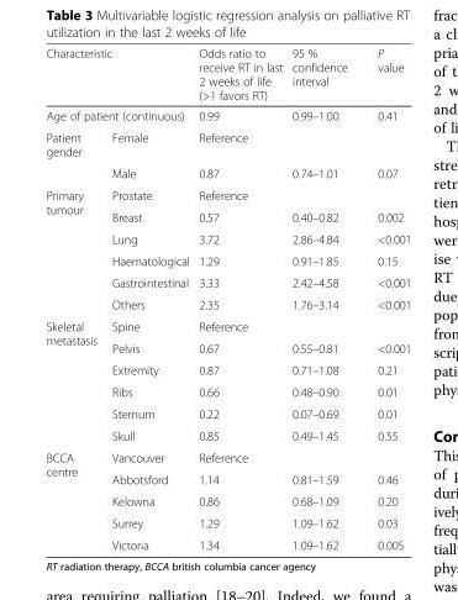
<table><thead><tr><td rowspan="2" colspan="2">Characteristic Age of patient (continuous)</td><td rowspan="2">Odds ratio to receive RT in last 2 weeks of life (&gt;1 favors RT) 0.99</td><td rowspan="2">95 % confidence interval 0.99–1.00</td><td rowspan="2">P value 0.41</td></tr><tr></tr><tr><td>Patient gender</td><td>Female</td><td colspan="3">Reference</td></tr></thead><tbody><tr><td></td><td>Male</td><td>0.87</td><td>0.74–1.01</td><td>0.07</td></tr><tr><td rowspan="6">Primary tumour</td><td>Prostate</td><td colspan="3">Reference</td></tr><tr><td>Breast</td><td>0.57</td><td>0.40–0.82</td><td>0.002</td></tr><tr><td>Lung</td><td>3.72</td><td>2.86–4.84</td><td>&lt;0.001</td></tr><tr><td>Haematological</td><td>1.29</td><td>0.91–1.85</td><td>0.15</td></tr><tr><td>Gastrointestinal</td><td>3.33</td><td>2.42–4.58</td><td>&lt;0.001</td></tr><tr><td>Others</td><td>2.35</td><td>1.76–3.14</td><td>&lt;0.001</td></tr><tr><td rowspan="6">Skeletal metastasis</td><td>Spine</td><td colspan="3">Reference</td></tr><tr><td>Pelvis</td><td>0.67</td><td>0.55–0.81</td><td>&lt;0.001</td></tr><tr><td>Extremity</td><td>0.87</td><td>0.71–1.08</td><td>0.21</td></tr><tr><td>Ribs</td><td>0.66</td><td>0.48–0.90</td><td>0.01</td></tr><tr><td>Sternum</td><td>0.22</td><td>0.07–0.69</td><td>0.01</td></tr><tr><td>Skull</td><td>0.85</td><td>0.49–1.45</td><td>0.55</td></tr><tr><td rowspan="5">BCCA centre</td><td>Vancouver</td><td colspan="3">Reference</td></tr><tr><td>Abbotsford</td><td>1.14</td><td>0.81–1.59</td><td>0.46</td></tr><tr><td>Kelowna</td><td>0.86</td><td>0.68–1.09</td><td>0.20</td></tr><tr><td>Surrey</td><td>1.29</td><td>1.09–1.62</td><td>0.03</td></tr><tr><td>Victoria</td><td>1.34</td><td>1.09–1.62</td><td>0.005</td></tr></tbody></table>